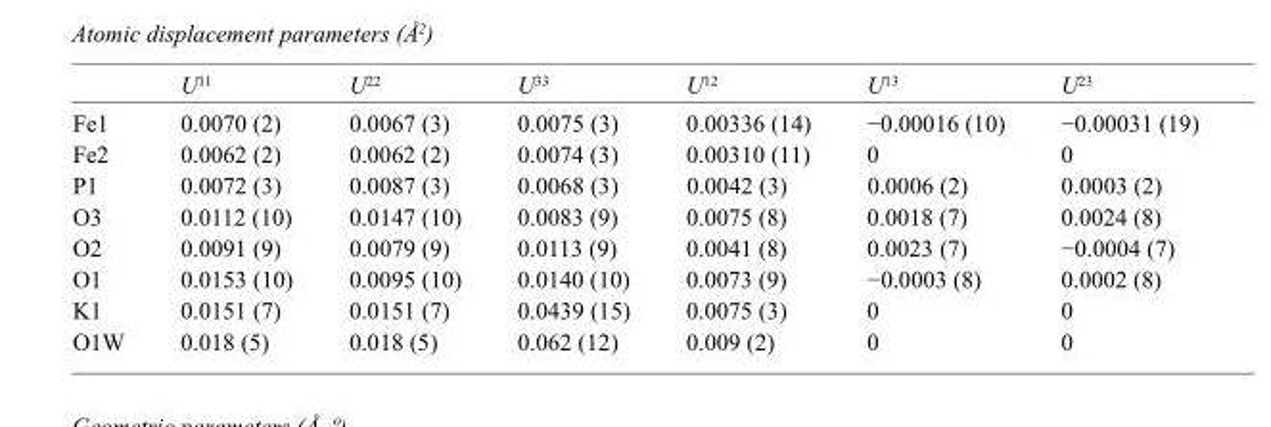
<table><thead><tr><td></td><td>U<sup>11</sup></td><td>U<sup>22</sup></td><td>U<sup>33</sup></td><td>U<sup>12</sup></td><td>U<sup>13</sup></td><td>U<sup>23</sup></td></tr></thead><tbody><tr><td>Fe1</td><td>0.0070 (2)</td><td>0.0067 (3)</td><td>0.0075 (3)</td><td>0.00336 (14)</td><td>−0.00016 (10)</td><td>−0.00031 (19)</td></tr><tr><td>Fe2</td><td>0.0062 (2)</td><td>0.0062 (2)</td><td>0.0074 (3)</td><td>0.00310 (11)</td><td>0</td><td>0</td></tr><tr><td>P1</td><td>0.0072 (3)</td><td>0.0087 (3)</td><td>0.0068 (3)</td><td>0.0042 (3)</td><td>0.0006 (2)</td><td>0.0003 (2)</td></tr><tr><td>O3</td><td>0.0112 (10)</td><td>0.0147 (10)</td><td>0.0083 (9)</td><td>0.0075 (8)</td><td>0.0018 (7)</td><td>0.0024 (8)</td></tr><tr><td>O2</td><td>0.0091 (9)</td><td>0.0079 (9)</td><td>0.0113 (9)</td><td>0.0041 (8)</td><td>0.0023 (7)</td><td>−0.0004 (7)</td></tr><tr><td>O1</td><td>0.0153 (10)</td><td>0.0095 (10)</td><td>0.0140 (10)</td><td>0.0073 (9)</td><td>−0.0003 (8)</td><td>0.0002 (8)</td></tr><tr><td>K1</td><td>0.0151 (7)</td><td>0.0151 (7)</td><td>0.0439 (15)</td><td>0.0075 (3)</td><td>0</td><td>0</td></tr><tr><td>O1W</td><td>0.018 (5)</td><td>0.018 (5)</td><td>0.062 (12)</td><td>0.009 (2)</td><td>0</td><td>0</td></tr></tbody></table>